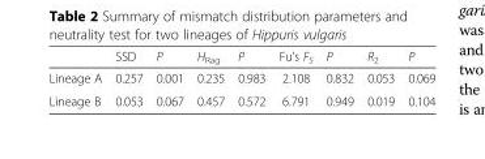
<table><thead><tr><td></td><td>SSD</td><td>P</td><td>H<sub>Rag</sub></td><td>P</td><td>Fu’s F<sub>S</sub></td><td>P</td><td>R<sub>2</sub></td><td>P</td></tr></thead><tbody><tr><td>Lineage A</td><td>0.257</td><td>0.001</td><td>0.235</td><td>0.983</td><td>2.108</td><td>0.832</td><td>0.053</td><td>0.069</td></tr><tr><td>Lineage B</td><td>0.053</td><td>0.067</td><td>0.457</td><td>0.572</td><td>6.791</td><td>0.949</td><td>0.019</td><td>0.104</td></tr></tbody></table>